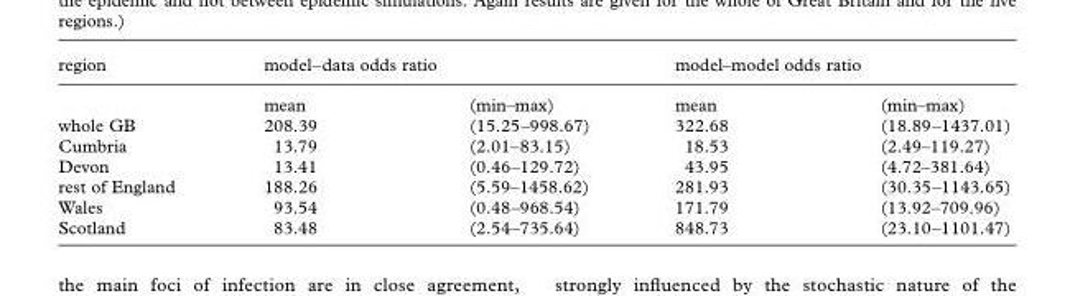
<table><thead><tr><td>region</td><td>model–data odds ratio</td><td></td><td>model–model odds ratio</td><td></td></tr></thead><tbody><tr><td></td><td>mean</td><td>(min–max)</td><td>mean</td><td>(min–max)</td></tr><tr><td>whole GB</td><td>208.39</td><td>(15.25–998.67)</td><td>322.68</td><td>(18.89–1437.01)</td></tr><tr><td>Cumbria</td><td>13.79</td><td>(2.01–83.15)</td><td>18.53</td><td>(2.49–119.27)</td></tr><tr><td>Devon</td><td>13.41</td><td>(0.46–129.72)</td><td>43.95</td><td>(4.72–381.64)</td></tr><tr><td>rest of England</td><td>188.26</td><td>(5.59–1458.62)</td><td>281.93</td><td>(30.35–1143.65)</td></tr><tr><td>Wales</td><td>93.54</td><td>(0.48–968.54)</td><td>171.79</td><td>(13.92–709.96)</td></tr><tr><td>Scotland</td><td>83.48</td><td>(2.54–735.64)</td><td>848.73</td><td>(23.10–1101.47)</td></tr></tbody></table>